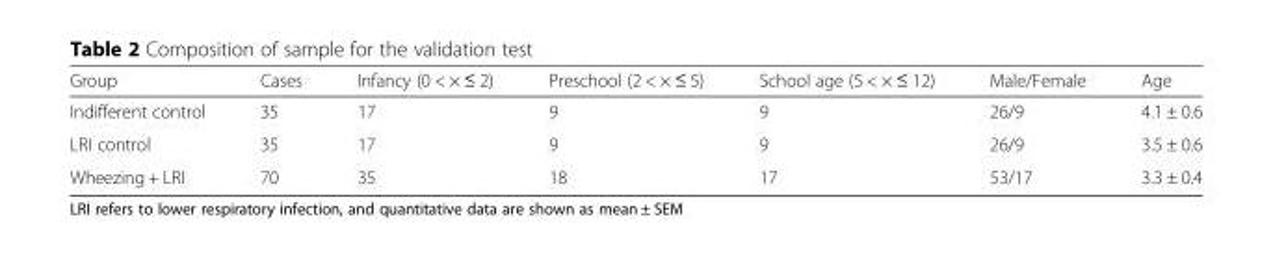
<table><thead><tr><td>Group</td><td>Cases</td><td>Infancy (0 &lt; × ≤ 2)</td><td>Preschool (2 &lt; × ≤ 5)</td><td>School age (5 &lt; × ≤ 12)</td><td>Male/Female</td><td>Age</td></tr></thead><tbody><tr><td>Indifferent control</td><td>35</td><td>17</td><td>9</td><td>9</td><td>26/9</td><td>4.1 ± 0.6</td></tr><tr><td>LRI control</td><td>35</td><td>17</td><td>9</td><td>9</td><td>26/9</td><td>3.5 ± 0.6</td></tr><tr><td>Wheezing + LRI</td><td>70</td><td>35</td><td>18</td><td>17</td><td>53/17</td><td>3.3 ± 0.4</td></tr></tbody></table>